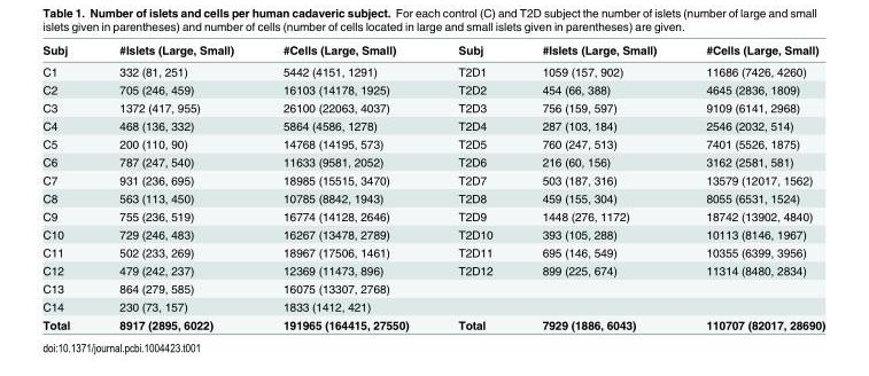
<table><thead><tr><td>Subj</td><td>#Islets (Large, Small)</td><td>#Cells (Large, Small)</td><td>Subj</td><td>#Islets (Large, Small)</td><td>#Cells (Large, Small)</td></tr></thead><tbody><tr><td>C1</td><td>332 (81, 251)</td><td>5442 (4151, 1291)</td><td>T2D1</td><td>1059 (157, 902)</td><td>11686 (7426, 4260)</td></tr><tr><td>C2</td><td>705 (246, 459)</td><td>16103 (14178, 1925)</td><td>T2D2</td><td>454 (66, 388)</td><td>4645 (2836, 1809)</td></tr><tr><td>C3</td><td>1372 (417, 955)</td><td>26100 (22063, 4037)</td><td>T2D3</td><td>756 (159, 597)</td><td>9109 (6141, 2968)</td></tr><tr><td>C4</td><td>468 (136, 332)</td><td>5864 (4586, 1278)</td><td>T2D4</td><td>287 (103, 184)</td><td>2546 (2032, 514)</td></tr><tr><td>C5</td><td>200 (110, 90)</td><td>14768 (14195, 573)</td><td>T2D5</td><td>760 (247, 513)</td><td>7401 (5526, 1875)</td></tr><tr><td>C6</td><td>787 (247, 540)</td><td>11633 (9581, 2052)</td><td>T2D6</td><td>216 (60, 156)</td><td>3162 (2581, 581)</td></tr><tr><td>C7</td><td>931 (236, 695)</td><td>18985 (15515, 3470)</td><td>T2D7</td><td>503 (187, 316)</td><td>13579 (12017, 1562)</td></tr><tr><td>C8</td><td>563 (113, 450)</td><td>10785 (8842, 1943)</td><td>T2D8</td><td>459 (155, 304)</td><td>8055 (6531, 1524)</td></tr><tr><td>C9</td><td>755 (236, 519)</td><td>16774 (14128, 2646)</td><td>T2D9</td><td>1448 (276, 1172)</td><td>18742 (13902, 4840)</td></tr><tr><td>C10</td><td>729 (246, 483)</td><td>16267 (13478, 2789)</td><td>T2D10</td><td>393 (105, 288)</td><td>10113 (8146, 1967)</td></tr><tr><td>C11</td><td>502 (233, 269)</td><td>18967 (17506, 1461)</td><td>T2D11</td><td>695 (146, 549)</td><td>10355 (6399, 3956)</td></tr><tr><td>C12</td><td>479 (242, 237)</td><td>12369 (11473, 896)</td><td>T2D12</td><td>899 (225, 674)</td><td>11314 (8480, 2834)</td></tr><tr><td>C13</td><td>864 (279, 585)</td><td>16075 (13307, 2768)</td><td></td><td></td><td></td></tr><tr><td>C14</td><td>230 (73, 157)</td><td>1833 (1412, 421)</td><td></td><td></td><td></td></tr><tr><td>Total</td><td>8917 (2895, 6022)</td><td>191965 (164415, 27550)</td><td>Total</td><td>7929 (1886, 6043)</td><td>110707 (82017, 28690)</td></tr></tbody></table>